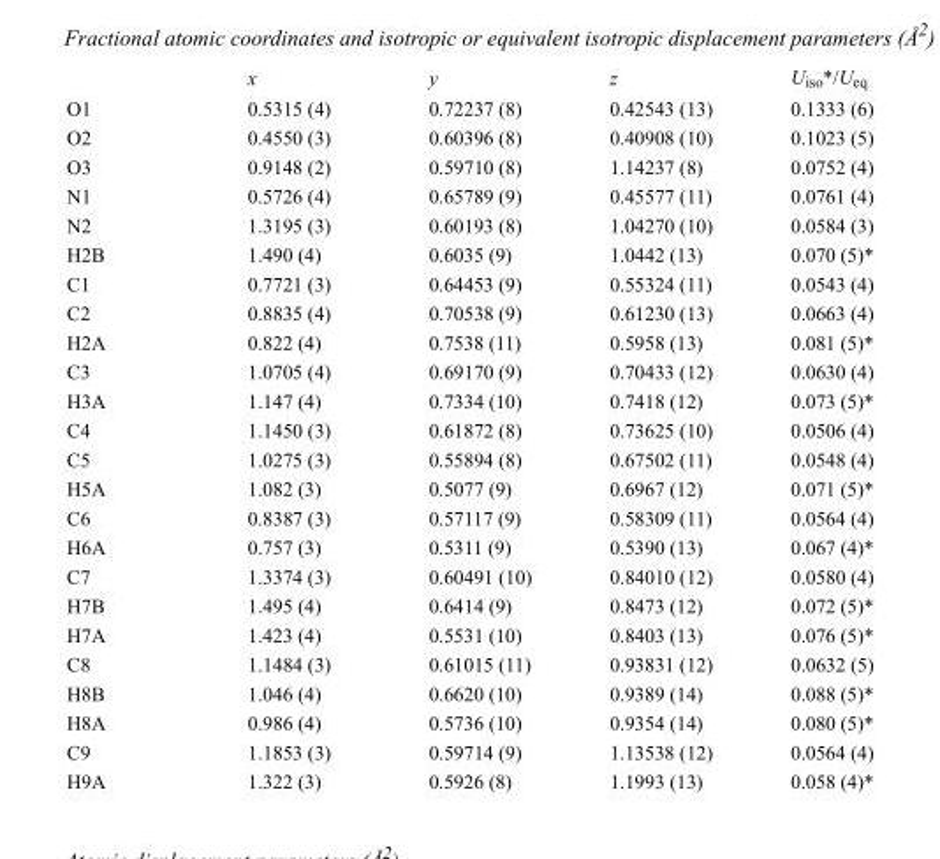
<table><thead><tr><td></td><td>x</td><td>y</td><td>z</td><td>U<sub>iso</sub>*/U<sub>eq</sub></td></tr></thead><tbody><tr><td>O1</td><td>0.5315 (4)</td><td>0.72237 (8)</td><td>0.42543 (13)</td><td>0.1333 (6)</td></tr><tr><td>O2</td><td>0.4550 (3)</td><td>0.60396 (8)</td><td>0.40908 (10)</td><td>0.1023 (5)</td></tr><tr><td>O3</td><td>0.9148 (2)</td><td>0.59710 (8)</td><td>1.14237 (8)</td><td>0.0752 (4)</td></tr><tr><td>N1</td><td>0.5726 (4)</td><td>0.65789 (9)</td><td>0.45577 (11)</td><td>0.0761 (4)</td></tr><tr><td>N2</td><td>1.3195 (3)</td><td>0.60193 (8)</td><td>1.04270 (10)</td><td>0.0584 (3)</td></tr><tr><td>H2B</td><td>1.490 (4)</td><td>0.6035 (9)</td><td>1.0442 (13)</td><td>0.070 (5)*</td></tr><tr><td>C1</td><td>0.7721 (3)</td><td>0.64453 (9)</td><td>0.55324 (11)</td><td>0.0543 (4)</td></tr><tr><td>C2</td><td>0.8835 (4)</td><td>0.70538 (9)</td><td>0.61230 (13)</td><td>0.0663 (4)</td></tr><tr><td>H2A</td><td>0.822 (4)</td><td>0.7538 (11)</td><td>0.5958 (13)</td><td>0.081 (5)*</td></tr><tr><td>C3</td><td>1.0705 (4)</td><td>0.69170 (9)</td><td>0.70433 (12)</td><td>0.0630 (4)</td></tr><tr><td>H3A</td><td>1.147 (4)</td><td>0.7334 (10)</td><td>0.7418 (12)</td><td>0.073 (5)*</td></tr><tr><td>C4</td><td>1.1450 (3)</td><td>0.61872 (8)</td><td>0.73625 (10)</td><td>0.0506 (4)</td></tr><tr><td>C5</td><td>1.0275 (3)</td><td>0.55894 (8)</td><td>0.67502 (11)</td><td>0.0548 (4)</td></tr><tr><td>H5A</td><td>1.082 (3)</td><td>0.5077 (9)</td><td>0.6967 (12)</td><td>0.071 (5)*</td></tr><tr><td>C6</td><td>0.8387 (3)</td><td>0.57117 (9)</td><td>0.58309 (11)</td><td>0.0564 (4)</td></tr><tr><td>H6A</td><td>0.757 (3)</td><td>0.5311 (9)</td><td>0.5390 (13)</td><td>0.067 (4)*</td></tr><tr><td>C7</td><td>1.3374 (3)</td><td>0.60491 (10)</td><td>0.84010 (12)</td><td>0.0580 (4)</td></tr><tr><td>H7B</td><td>1.495 (4)</td><td>0.6414 (9)</td><td>0.8473 (12)</td><td>0.072 (5)*</td></tr><tr><td>H7A</td><td>1.423 (4)</td><td>0.5531 (10)</td><td>0.8403 (13)</td><td>0.076 (5)*</td></tr><tr><td>C8</td><td>1.1484 (3)</td><td>0.61015 (11)</td><td>0.93831 (12)</td><td>0.0632 (5)</td></tr><tr><td>H8B</td><td>1.046 (4)</td><td>0.6620 (10)</td><td>0.9389 (14)</td><td>0.088 (5)*</td></tr><tr><td>H8A</td><td>0.986 (4)</td><td>0.5736 (10)</td><td>0.9354 (14)</td><td>0.080 (5)*</td></tr><tr><td>C9</td><td>1.1853 (3)</td><td>0.59714 (9)</td><td>1.13538 (12)</td><td>0.0564 (4)</td></tr><tr><td>H9A</td><td>1.322 (3)</td><td>0.5926 (8)</td><td>1.1993 (13)</td><td>0.058 (4)*</td></tr></tbody></table>